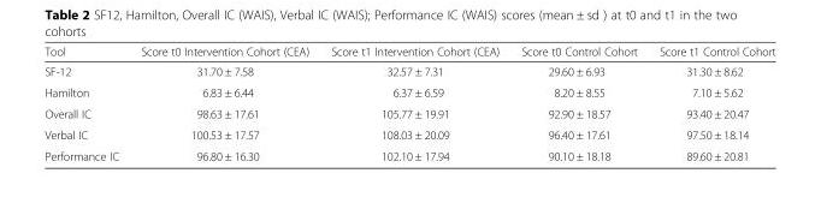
<table><thead><tr><td>Tool</td><td>Score t0 Intervention Cohort (CEA)</td><td>Score t1 Intervention Cohort (CEA)</td><td>Score t0 Control Cohort</td><td>Score t1 Control Cohort</td></tr></thead><tbody><tr><td>SF-12</td><td>31.70 ± 7.58</td><td>32.57 ± 7.31</td><td>29.60 ± 6.93</td><td>31.30 ± 8.62</td></tr><tr><td>Hamilton</td><td>6.83 ± 6.44</td><td>6.37 ± 6.59</td><td>8.20 ± 8.55</td><td>7.10 ± 5.62</td></tr><tr><td>Overall IC</td><td>98.63 ± 17.61</td><td>105.77 ± 19.91</td><td>92.90 ± 18.57</td><td>93.40 ± 20.47</td></tr><tr><td>Verbal IC</td><td>100.53 ± 17.57</td><td>108.03 ± 20.09</td><td>96.40 ± 17.61</td><td>97.50 ± 18.14</td></tr><tr><td>Performance IC</td><td>96.80 ± 16.30</td><td>102.10 ± 17.94</td><td>90.10 ± 18.18</td><td>89.60 ± 20.81</td></tr></tbody></table>